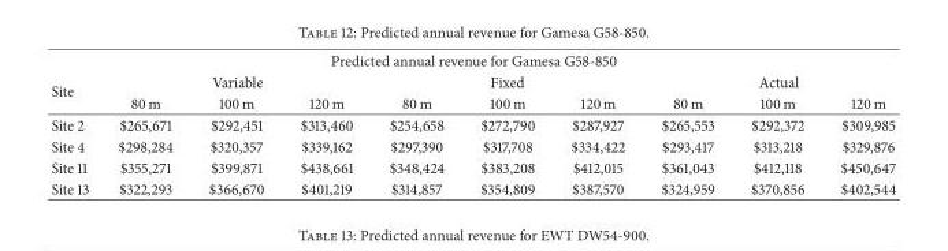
<table><thead><tr><td colspan="10">Predicted annual revenue for Gamesa G58-850</td></tr><tr><td rowspan="2">Site</td><td colspan="3">Variable</td><td colspan="3">Fixed</td><td colspan="3">Actual</td></tr><tr><td>80 m</td><td>100 m</td><td>120 m</td><td>80 m</td><td>100 m</td><td>120 m</td><td>80 m</td><td>100 m</td><td>120 m</td></tr></thead><tbody><tr><td>Site 2</td><td>$265,671</td><td>$292,451</td><td>$313,460</td><td>$254,658</td><td>$272,790</td><td>$287,927</td><td>$265,553</td><td>$292,372</td><td>$309,985</td></tr><tr><td>Site 4</td><td>$298,284</td><td>$320,357</td><td>$339,162</td><td>$297,390</td><td>$317,708</td><td>$334,422</td><td>$293,417</td><td>$313,218</td><td>$329,876</td></tr><tr><td>Site 11</td><td>$355,271</td><td>$399,871</td><td>$438,661</td><td>$348,424</td><td>$383,208</td><td>$412,015</td><td>$361,043</td><td>$412,118</td><td>$450,647</td></tr><tr><td>Site 13</td><td>$322,293</td><td>$366,670</td><td>$401,219</td><td>$314,857</td><td>$354,809</td><td>$387,570</td><td>$324,959</td><td>$370,856</td><td>$402,544</td></tr></tbody></table>